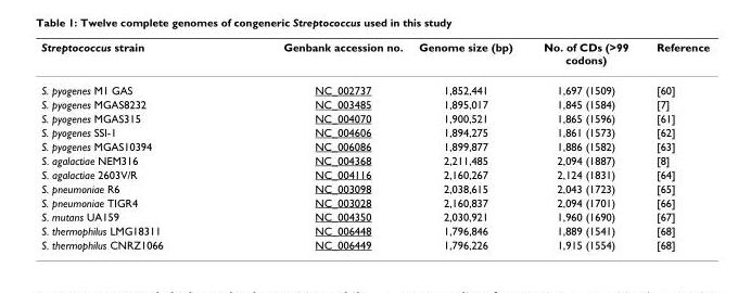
<table><thead><tr><td>Streptococcus strain</td><td>Genbank accession no.</td><td>Genome size (bp)</td><td>No. of CDs (&gt;99 codons)</td><td>Reference</td></tr></thead><tbody><tr><td>S. pyogenes M1 GAS</td><td>NC_002737</td><td>1,852,441</td><td>1,697 (1509)</td><td>[60]</td></tr><tr><td>S. pyogenes MGAS8232</td><td>NC_003485</td><td>1,895,017</td><td>1,845 (1584)</td><td>[7]</td></tr><tr><td>S. pyogenes MGAS315</td><td>NC_004070</td><td>1,900,521</td><td>1,865 (1596)</td><td>[61]</td></tr><tr><td>S. pyogenes SSI-1</td><td>NC_004606</td><td>1,894,275</td><td>1,861 (1573)</td><td>[62]</td></tr><tr><td>S. pyogenes MGAS10394</td><td>NC_006086</td><td>1,899,877</td><td>1,886 (1582)</td><td>[63]</td></tr><tr><td>S. agalactiae NEM316</td><td>NC_004368</td><td>2,211,485</td><td>2,094 (1887)</td><td>[8]</td></tr><tr><td>S. agalactiae 2603V/R</td><td>NC_004116</td><td>2,160,267</td><td>2,124 (1831)</td><td>[64]</td></tr><tr><td>S. pneumoniae R6</td><td>NC_003098</td><td>2,038,615</td><td>2,043 (1723)</td><td>[65]</td></tr><tr><td>S. pneumoniae TIGR4</td><td>NC_003028</td><td>2,160,837</td><td>2,094 (1701)</td><td>[66]</td></tr><tr><td>S. mutans UA159</td><td>NC_004350</td><td>2,030,921</td><td>1,960 (1690)</td><td>[67]</td></tr><tr><td>S. thermophilus LMG18311</td><td>NC_006448</td><td>1,796,846</td><td>1,889 (1541)</td><td>[68]</td></tr><tr><td>S. thermophilus CNRZ1066</td><td>NC_006449</td><td>1,796,226</td><td>1,915 (1554)</td><td>[68]</td></tr></tbody></table>